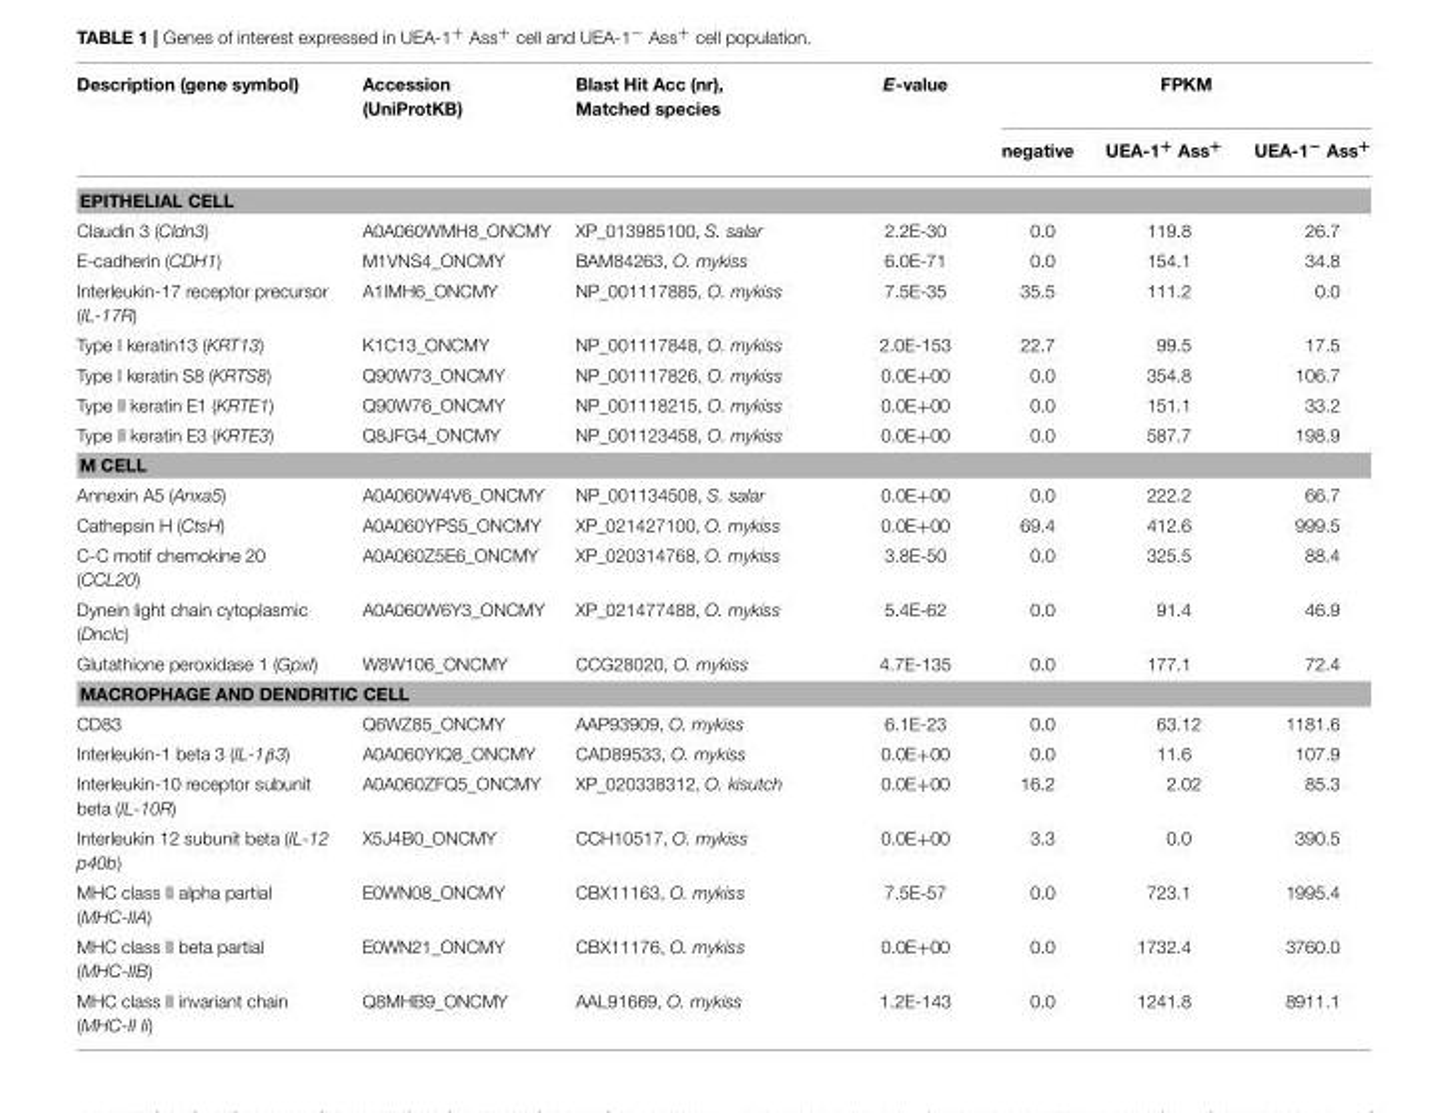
<table><thead><tr><td rowspan="2">Description (gene symbol)</td><td rowspan="2">Accession (UniProtKB)</td><td rowspan="2">Blast Hit Acc (nr), Matched species</td><td rowspan="2">E-value</td><td colspan="3">FPKM</td></tr><tr><td>negative</td><td>UEA-1<sup>+</sup> Ass<sup>+</sup></td><td>UEA-1<sup>−</sup> Ass<sup>+</sup></td></tr></thead><tbody><tr><td colspan="7">EPITHELIAL CELL</td></tr><tr><td>Claudin 3 (Cldn3)</td><td>A0A060WMH8_ONCMY</td><td>XP_013985100, S. salar</td><td>2.2E-30</td><td>0.0</td><td>119.8</td><td>26.7</td></tr><tr><td>E-cadherin (CDH1)</td><td>M1VNS4_ONCMY</td><td>BAM84263, O. mykiss</td><td>6.0E-71</td><td>0.0</td><td>154.1</td><td>34.8</td></tr><tr><td>Interleukin-17 receptor precursor (IL-17R)</td><td>A1IMH6_ONCMY</td><td>NP_001117885, O. mykiss</td><td>7.5E-35</td><td>35.5</td><td>111.2</td><td>0.0</td></tr><tr><td>Type I keratin13 (KRT13)</td><td>K1C13_ONCMY</td><td>NP_001117848, O. mykiss</td><td>2.0E-153</td><td>22.7</td><td>99.5</td><td>17.5</td></tr><tr><td>Type I keratin S8 (KRTS8)</td><td>Q90W73_ONCMY</td><td>NP_001117826, O. mykiss</td><td>0.0E+00</td><td>0.0</td><td>354.8</td><td>106.7</td></tr><tr><td>Type II keratin E1 (KRTE1)</td><td>Q90W76_ONCMY</td><td>NP_001118215, O. mykiss</td><td>0.0E+00</td><td>0.0</td><td>151.1</td><td>33.2</td></tr><tr><td>Type II keratin E3 (KRTE3)</td><td>Q8JFG4_ONCMY</td><td>NP_001123458, O. mykiss</td><td>0.0E+00</td><td>0.0</td><td>587.7</td><td>198.9</td></tr><tr><td colspan="7">M CELL</td></tr><tr><td>Annexin A5 (Anxa5)</td><td>A0A060W4V6_ONCMY</td><td>NP_001134508, S. salar</td><td>0.0E+00</td><td>0.0</td><td>222.2</td><td>66.7</td></tr><tr><td>Cathepsin H (CtsH)</td><td>A0A060YPS5_ONCMY</td><td>XP_021427100, O. mykiss</td><td>0.0E+00</td><td>69.4</td><td>412.6</td><td>999.5</td></tr><tr><td>C-C motif chemokine 20 (CCL20)</td><td>A0A060Z5E6_ONCMY</td><td>XP_020314768, O. mykiss</td><td>3.8E-50</td><td>0.0</td><td>325.5</td><td>88.4</td></tr><tr><td>Dynein light chain cytoplasmic (Dnclc)</td><td>A0A060W6Y3_ONCMY</td><td>XP_021477488, O. mykiss</td><td>5.4E-62</td><td>0.0</td><td>91.4</td><td>46.9</td></tr><tr><td>Glutathione peroxidase 1 (GpxI)</td><td>W8W106_ONCMY</td><td>CCG28020, O. mykiss</td><td>4.7E-135</td><td>0.0</td><td>177.1</td><td>72.4</td></tr><tr><td colspan="7">MACROPHAGE AND DENDRITIC CELL</td></tr><tr><td>CD83</td><td>Q6WZ85_ONCMY</td><td>AAP93909, O. mykiss</td><td>6.1E-23</td><td>0.0</td><td>63.12</td><td>1181.6</td></tr><tr><td>Interleukin-1 beta 3 (IL-1β3)</td><td>A0A060YIQ8_ONCMY</td><td>CAD89533, O. mykiss</td><td>0.0E+00</td><td>0.0</td><td>11.6</td><td>107.9</td></tr><tr><td>Interleukin-10 receptor subunit beta (IL-10R)</td><td>A0A060ZFQ5_ONCMY</td><td>XP_020338312, O. kisutch</td><td>0.0E+00</td><td>16.2</td><td>2.02</td><td>85.3</td></tr><tr><td>Interleukin 12 subunit beta (IL-12 p40b)</td><td>X5J4B0_ONCMY</td><td>CCH10517, O. mykiss</td><td>0.0E+00</td><td>3.3</td><td>0.0</td><td>390.5</td></tr><tr><td>MHC class II alpha partial (MHC-IIA)</td><td>E0WN08_ONCMY</td><td>CBX11163, O. mykiss</td><td>7.5E-57</td><td>0.0</td><td>723.1</td><td>1995.4</td></tr><tr><td>MHC class II beta partial (MHC-IIB)</td><td>E0WN21_ONCMY</td><td>CBX11176, O. mykiss</td><td>0.0E+00</td><td>0.0</td><td>1732.4</td><td>3760.0</td></tr><tr><td>MHC class II invariant chain (MHC-II Ii)</td><td>Q8MHB9_ONCMY</td><td>AAL91669, O. mykiss</td><td>1.2E-143</td><td>0.0</td><td>1241.8</td><td>8911.1</td></tr></tbody></table>